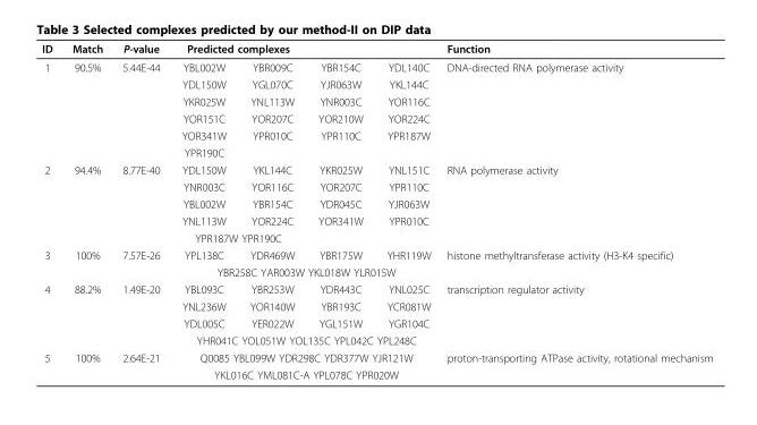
<table><thead><tr><td rowspan="2">ID 1</td><td rowspan="2">Match 90.5%</td><td rowspan="2">P-value 5.44E-44</td><td colspan="2">Predicted complexes</td><td rowspan="2">YBR154C</td><td rowspan="2">YDL140C</td><td rowspan="2">Function DNA-directed RNA polymerase activity</td></tr><tr><td>YBL002W</td><td>YBR009C</td></tr></thead><tbody><tr><td></td><td></td><td></td><td>YDL150W</td><td>YGL070C</td><td>YJR063W</td><td>YKL144C</td><td></td></tr><tr><td></td><td></td><td></td><td>YKR025W</td><td>YNL113W</td><td>YNR003C</td><td>YOR116C</td><td></td></tr><tr><td></td><td></td><td></td><td>YOR151C</td><td>YOR207C</td><td>YOR210W</td><td>YOR224C</td><td></td></tr><tr><td></td><td></td><td></td><td>YOR341W</td><td>YPR010C</td><td>YPR110C</td><td>YPR187W</td><td></td></tr><tr><td></td><td></td><td></td><td>YPR190C</td><td></td><td></td><td></td><td></td></tr><tr><td rowspan="5">2</td><td>94.4%</td><td>8.77E-40</td><td>YDL150W</td><td>YKL144C</td><td>YKR025W</td><td>YNL151C</td><td>RNA polymerase activity</td></tr><tr><td></td><td></td><td>YNR003C</td><td>YOR116C</td><td>YOR207C</td><td>YPR110C</td><td></td></tr><tr><td></td><td></td><td>YBL002W</td><td>YBR154C</td><td>YDR045C</td><td>YJR063W</td><td></td></tr><tr><td></td><td></td><td>YNL113W</td><td>YOR224C</td><td>YOR341W</td><td>YPR010C</td><td></td></tr><tr><td></td><td></td><td colspan="2">YPR187W YPR190C</td><td></td><td></td><td></td></tr><tr><td rowspan="2">3</td><td>100%</td><td>7.57E-26</td><td>YPL138C</td><td>YDR469W</td><td>YBR175W</td><td>YHR119W</td><td>histone methyltransferase activity (H3-K4 specific)</td></tr><tr><td></td><td></td><td colspan="4">YBR258C YAR003W YKL018W YLR015W</td><td></td></tr><tr><td rowspan="4">4</td><td>88.2%</td><td>1.49E-20</td><td>YBL093C</td><td>YBR253W</td><td>YDR443C</td><td>YNL025C</td><td>transcription regulator activity</td></tr><tr><td></td><td></td><td>YNL236W</td><td>YOR140W</td><td>YBR193C</td><td>YCR081W</td><td></td></tr><tr><td></td><td></td><td>YDL005C</td><td>YER022W</td><td>YGL151W</td><td>YGR104C</td><td></td></tr><tr><td></td><td></td><td colspan="4">YHR041C YOL051W YOL135C YPL042C YPL248C</td><td></td></tr><tr><td rowspan="2">5</td><td>100%</td><td>2.64E-21</td><td colspan="4">Q0085 YBL099W YDR298C YDR377W YJR121W</td><td>proton-transporting ATPase activity, rotational mechanism</td></tr><tr><td></td><td></td><td colspan="4">YKL016C YML081C-A YPL078C YPR020W</td><td></td></tr></tbody></table>